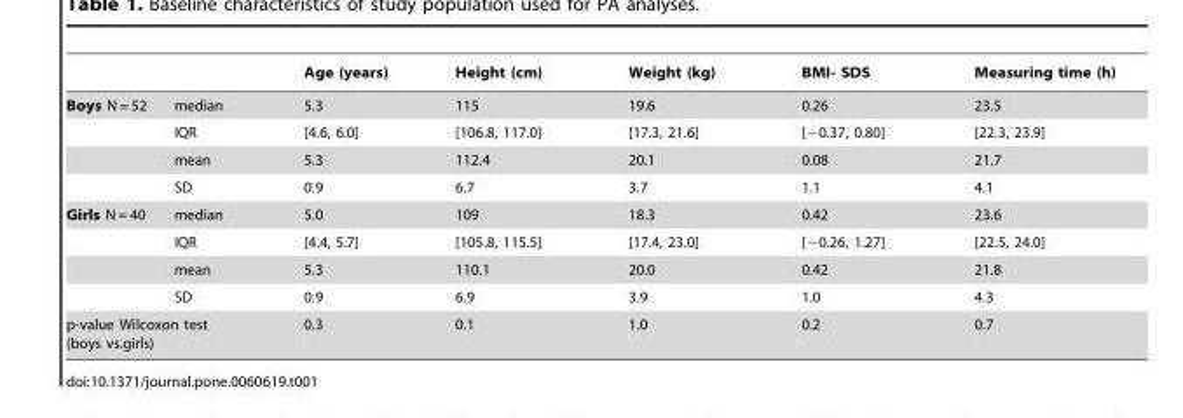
<table><thead><tr><td></td><td></td><td>Age (years)</td><td>Height (cm)</td><td>Weight (kg)</td><td>BMI- SDS</td><td>Measuring time (h)</td></tr></thead><tbody><tr><td rowspan="4">Boys N = 52</td><td>median</td><td>5.3</td><td>115</td><td>19.6</td><td>0.26</td><td>23.5</td></tr><tr><td>IQR</td><td>[4.6, 6.0]</td><td>[106.8, 117.0]</td><td>[17.3, 21.6]</td><td>[−0.37, 0.80]</td><td>[22.3, 23.9]</td></tr><tr><td>mean</td><td>5.3</td><td>112.4</td><td>20.1</td><td>0.08</td><td>21.7</td></tr><tr><td>SD</td><td>0.9</td><td>6.7</td><td>3.7</td><td>1.1</td><td>4.1</td></tr><tr><td rowspan="4">Girls N = 40</td><td>median</td><td>5.0</td><td>109</td><td>18.3</td><td>0.42</td><td>23.6</td></tr><tr><td>IQR</td><td>[4.4, 5.7]</td><td>[105.8, 115.5]</td><td>[17.4, 23.0]</td><td>[−0.26, 1.27]</td><td>[22.5, 24.0]</td></tr><tr><td>mean</td><td>5.3</td><td>110.1</td><td>20.0</td><td>0.42</td><td>21.8</td></tr><tr><td>SD</td><td>0.9</td><td>6.9</td><td>3.9</td><td>1.0</td><td>4.3</td></tr><tr><td colspan="2">p-value Wilcoxon test (boys vs.girls)</td><td>0.3</td><td>0.1</td><td>1.0</td><td>0.2</td><td>0.7</td></tr></tbody></table>